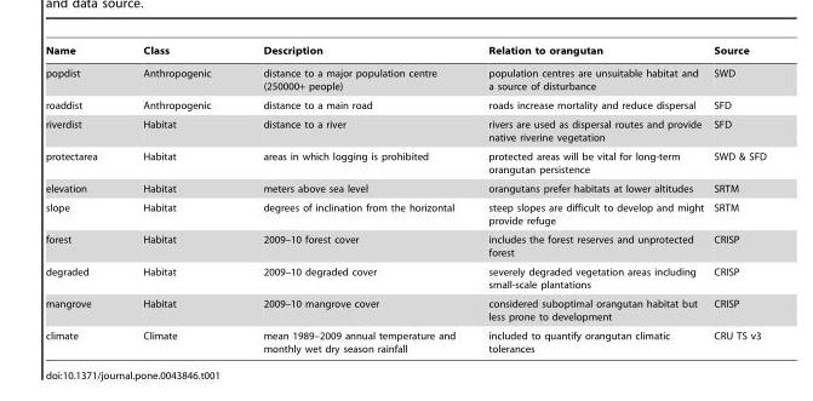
<table><thead><tr><td>Name</td><td>Class</td><td>Description</td><td>Relation to orangutan</td><td>Source</td></tr></thead><tbody><tr><td>popdist</td><td>Anthropogenic</td><td>distance to a major population centre (250000+ people)</td><td>population centres are unsuitable habitat and a source of disturbance</td><td>SWD</td></tr><tr><td>roaddist</td><td>Anthropogenic</td><td>distance to a main road</td><td>roads increase mortality and reduce dispersal</td><td>SFD</td></tr><tr><td>riverdist</td><td>Habitat</td><td>distance to a river</td><td>rivers are used as dispersal routes and provide native riverine vegetation</td><td>SFD</td></tr><tr><td>protectarea</td><td>Habitat</td><td>areas in which logging is prohibited</td><td>protected areas will be vital for long-term orangutan persistence</td><td>SWD &amp; SFD</td></tr><tr><td>elevation</td><td>Habitat</td><td>meters above sea level</td><td>orangutans prefer habitats at lower altitudes</td><td>SRTM</td></tr><tr><td>slope</td><td>Habitat</td><td>degrees of inclination from the horizontal</td><td>steep slopes are difficult to develop and might provide refuge</td><td>SRTM</td></tr><tr><td>forest</td><td>Habitat</td><td>2009–10 forest cover</td><td>includes the forest reserves and unprotected forest</td><td>CRISP</td></tr><tr><td>degraded</td><td>Habitat</td><td>2009–10 degraded cover</td><td>severely degraded vegetation areas including small-scale plantations</td><td>CRISP</td></tr><tr><td>mangrove</td><td>Habitat</td><td>2009–10 mangrove cover</td><td>considered suboptimal orangutan habitat but less prone to development</td><td>CRISP</td></tr><tr><td>climate</td><td>Climate</td><td>mean 1989–2009 annual temperature and monthly wet dry season rainfall</td><td>included to quantify orangutan climatic tolerances</td><td>CRU TS v3</td></tr></tbody></table>